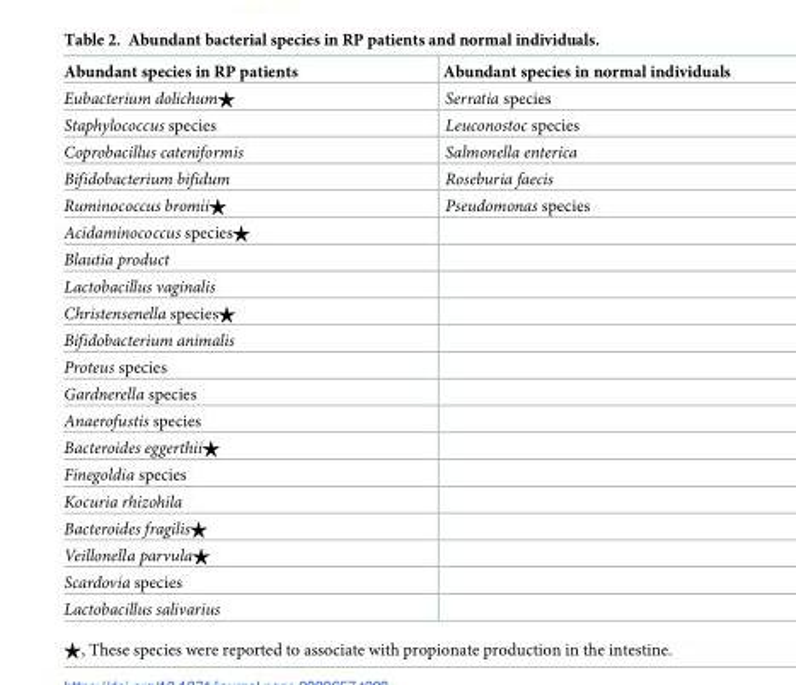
<table><thead><tr><td>Abundant species in RP patients</td><td>Abundant species in normal individuals</td></tr></thead><tbody><tr><td>Eubacterium dolichum★</td><td>Serratia species</td></tr><tr><td>Staphylococcus species</td><td>Leuconostoc species</td></tr><tr><td>Coprobacillus cateniformis</td><td>Salmonella enterica</td></tr><tr><td>Bifidobacterium bifidum</td><td>Roseburia faecis</td></tr><tr><td>Ruminococcus bromii★</td><td>Pseudomonas species</td></tr><tr><td colspan="2">Acidaminococcus species★</td></tr><tr><td colspan="2">Blautia product</td></tr><tr><td colspan="2">Lactobacillus vaginalis</td></tr><tr><td colspan="2">Christensenella species★</td></tr><tr><td colspan="2">Bifidobacterium animalis</td></tr><tr><td colspan="2">Proteus species</td></tr><tr><td colspan="2">Gardnerella species</td></tr><tr><td colspan="2">Anaerofustis species</td></tr><tr><td colspan="2">Bacteroides eggerthii★</td></tr><tr><td colspan="2">Finegoldia species</td></tr><tr><td colspan="2">Kocuria rhizohila</td></tr><tr><td colspan="2">Bacteroides fragilis★</td></tr><tr><td colspan="2">Veillonella parvula★</td></tr><tr><td colspan="2">Scardovia species</td></tr><tr><td>Lactobacillus salivarius</td><td></td></tr></tbody></table>